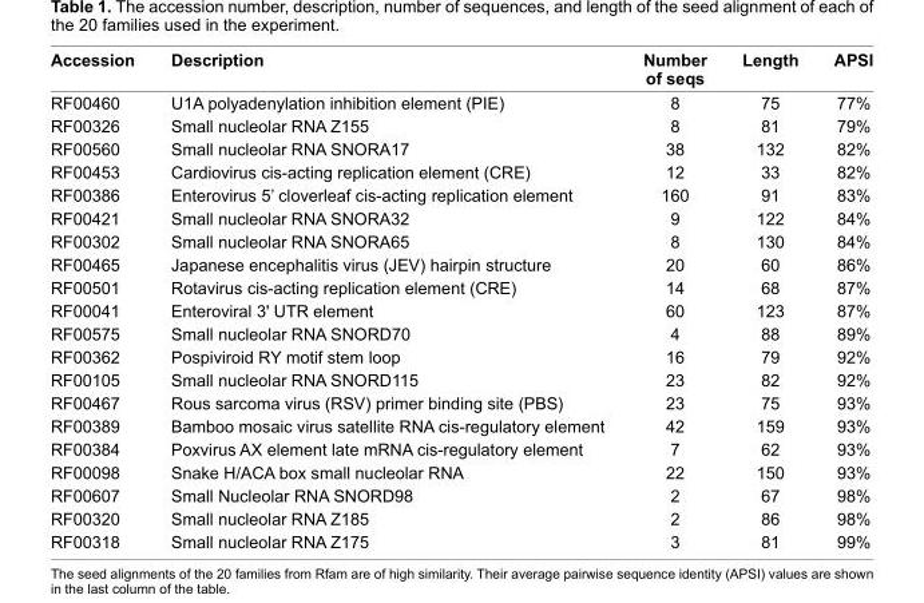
<table><thead><tr><td>Accession</td><td>Description</td><td>Number of seqs</td><td>Length</td><td>APSI</td></tr></thead><tbody><tr><td>RF00460</td><td>U1A polyadenylation inhibition element (PIE)</td><td>8</td><td>75</td><td>77%</td></tr><tr><td>RF00326</td><td>Small nucleolar RNA Z155</td><td>8</td><td>81</td><td>79%</td></tr><tr><td>RF00560</td><td>Small nucleolar RNA SNORA17</td><td>38</td><td>132</td><td>82%</td></tr><tr><td>RF00453</td><td>Cardiovirus cis-acting replication element (CRE)</td><td>12</td><td>33</td><td>82%</td></tr><tr><td>RF00386</td><td>Enterovirus 5’ cloverleaf cis-acting replication element</td><td>160</td><td>91</td><td>83%</td></tr><tr><td>RF00421</td><td>Small nucleolar RNA SNORA32</td><td>9</td><td>122</td><td>84%</td></tr><tr><td>RF00302</td><td>Small nucleolar RNA SNORA65</td><td>8</td><td>130</td><td>84%</td></tr><tr><td>RF00465</td><td>Japanese encephalitis virus (JEV) hairpin structure</td><td>20</td><td>60</td><td>86%</td></tr><tr><td>RF00501</td><td>Rotavirus cis-acting replication element (CRE)</td><td>14</td><td>68</td><td>87%</td></tr><tr><td>RF00041</td><td>Enteroviral 3&#x27; UTR element</td><td>60</td><td>123</td><td>87%</td></tr><tr><td>RF00575</td><td>Small nucleolar RNA SNORD70</td><td>4</td><td>88</td><td>89%</td></tr><tr><td>RF00362</td><td>Pospiviroid RY motif stem loop</td><td>16</td><td>79</td><td>92%</td></tr><tr><td>RF00105</td><td>Small nucleolar RNA SNORD115</td><td>23</td><td>82</td><td>92%</td></tr><tr><td>RF00467</td><td>Rous sarcoma virus (RSV) primer binding site (PBS)</td><td>23</td><td>75</td><td>93%</td></tr><tr><td>RF00389</td><td>Bamboo mosaic virus satellite RNA cis-regulatory element</td><td>42</td><td>159</td><td>93%</td></tr><tr><td>RF00384</td><td>Poxvirus AX element late mRNA cis-regulatory element</td><td>7</td><td>62</td><td>93%</td></tr><tr><td>RF00098</td><td>Snake H/ACA box small nucleolar RNA</td><td>22</td><td>150</td><td>93%</td></tr><tr><td>RF00607</td><td>Small Nucleolar RNA SNORD98</td><td>2</td><td>67</td><td>98%</td></tr><tr><td>RF00320</td><td>Small nucleolar RNA Z185</td><td>2</td><td>86</td><td>98%</td></tr><tr><td>RF00318</td><td>Small nucleolar RNA Z175</td><td>3</td><td>81</td><td>99%</td></tr></tbody></table>